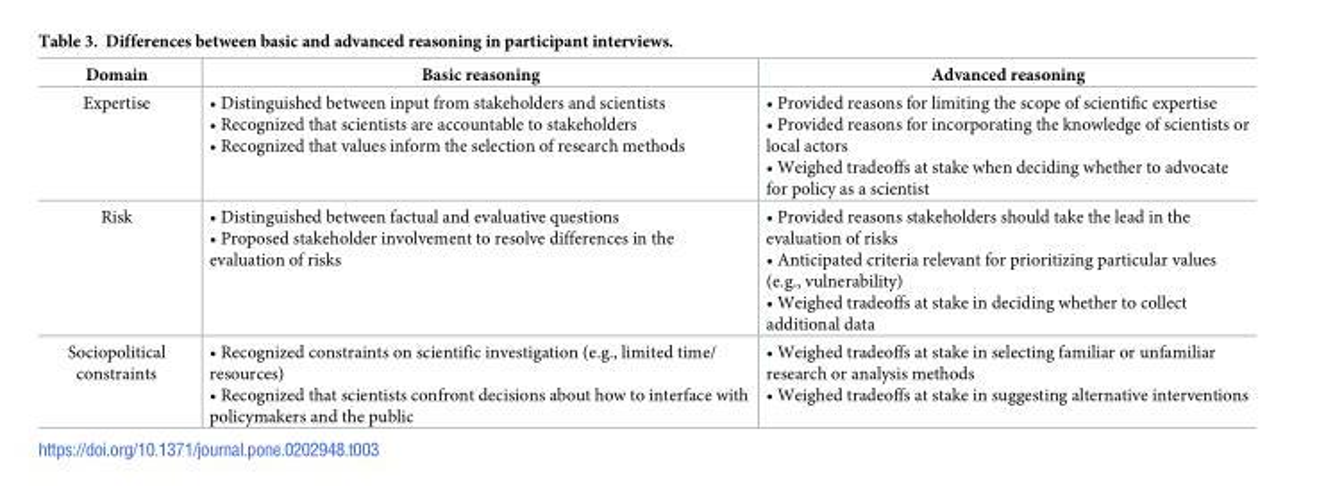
<table><thead><tr><td>Domain</td><td>Basic reasoning</td><td>Advanced reasoning</td></tr></thead><tbody><tr><td>Expertise</td><td>• Distinguished between input from stakeholders and scientists • Recognized that scientists are accountable to stakeholders • Recognized that values inform the selection of research methods</td><td>• Provided reasons for limiting the scope of scientific expertise • Provided reasons for incorporating the knowledge of scientists or local actors • Weighed tradeoffs at stake when deciding whether to advocate for policy as a scientist</td></tr><tr><td>Risk</td><td>• Distinguished between factual and evaluative questions • Proposed stakeholder involvement to resolve differences in the evaluation of risks</td><td>• Provided reasons stakeholders should take the lead in the evaluation of risks • Anticipated criteria relevant for prioritizing particular values (e.g., vulnerability) • Weighed tradeoffs at stake in deciding whether to collect additional data</td></tr><tr><td>Sociopolitical constraints</td><td>• Recognized constraints on scientific investigation (e.g., limited time/ resources) • Recognized that scientists confront decisions about how to interface with policymakers and the public</td><td>• Weighed tradeoffs at stake in selecting familiar or unfamiliar research or analysis methods • Weighed tradeoffs at stake in suggesting alternative interventions</td></tr></tbody></table>